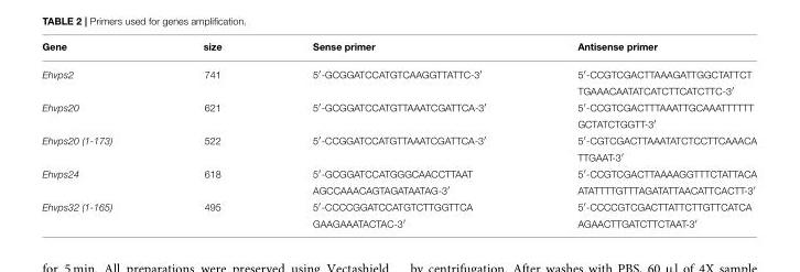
<table><thead><tr><td>Gene</td><td>size</td><td>Sense primer</td><td>Antisense primer</td></tr></thead><tbody><tr><td rowspan="2">Ehvps2</td><td>741</td><td>5′-GCGGATCCATGTCAAGGTTATTC-3′</td><td>5′-CCGTCGACTTAAAGATTGGCTATTCT</td></tr><tr><td></td><td></td><td>TGAAACAATATCATCTTCATCTTC-3′</td></tr><tr><td rowspan="2">Ehvps20</td><td>621</td><td>5′-GCGGATCCATGTTAAATCGATTCA-3′</td><td>5′-CCGTCGACTTTAAATTGCAAATTTTTT</td></tr><tr><td></td><td></td><td>GCTATCTGGTT-3′</td></tr><tr><td rowspan="2">Ehvps20 (1-173)</td><td>522</td><td>5′-CCGGATCCATGTTAAATCGATTCA-3′</td><td>5′-CGTCGACTTAAATATCTCCTTCAAACA</td></tr><tr><td></td><td></td><td>TTGAAT-3′</td></tr><tr><td rowspan="2">Ehvps24</td><td>618</td><td>5′-GCGGATCCATGGGCAACCTTAAT</td><td>5′-CCGTCGACTTAAAAGGTTTCTATTACA</td></tr><tr><td></td><td>AGCCAAACAGTAGATAATAG-3′</td><td>ATATTTTGTTTAGATATTAACATTCACTT-3′</td></tr><tr><td rowspan="2">Ehvps32 (1-165)</td><td>495</td><td>5′-CCCCGGATCCATGTCTTGGTTCA</td><td>5′-CCCCGTCGACTTATTCTTGTTCATCA</td></tr><tr><td></td><td>GAAGAAATACTAC-3′</td><td>AGAACTTGATCTTCTAAT-3′</td></tr></tbody></table>